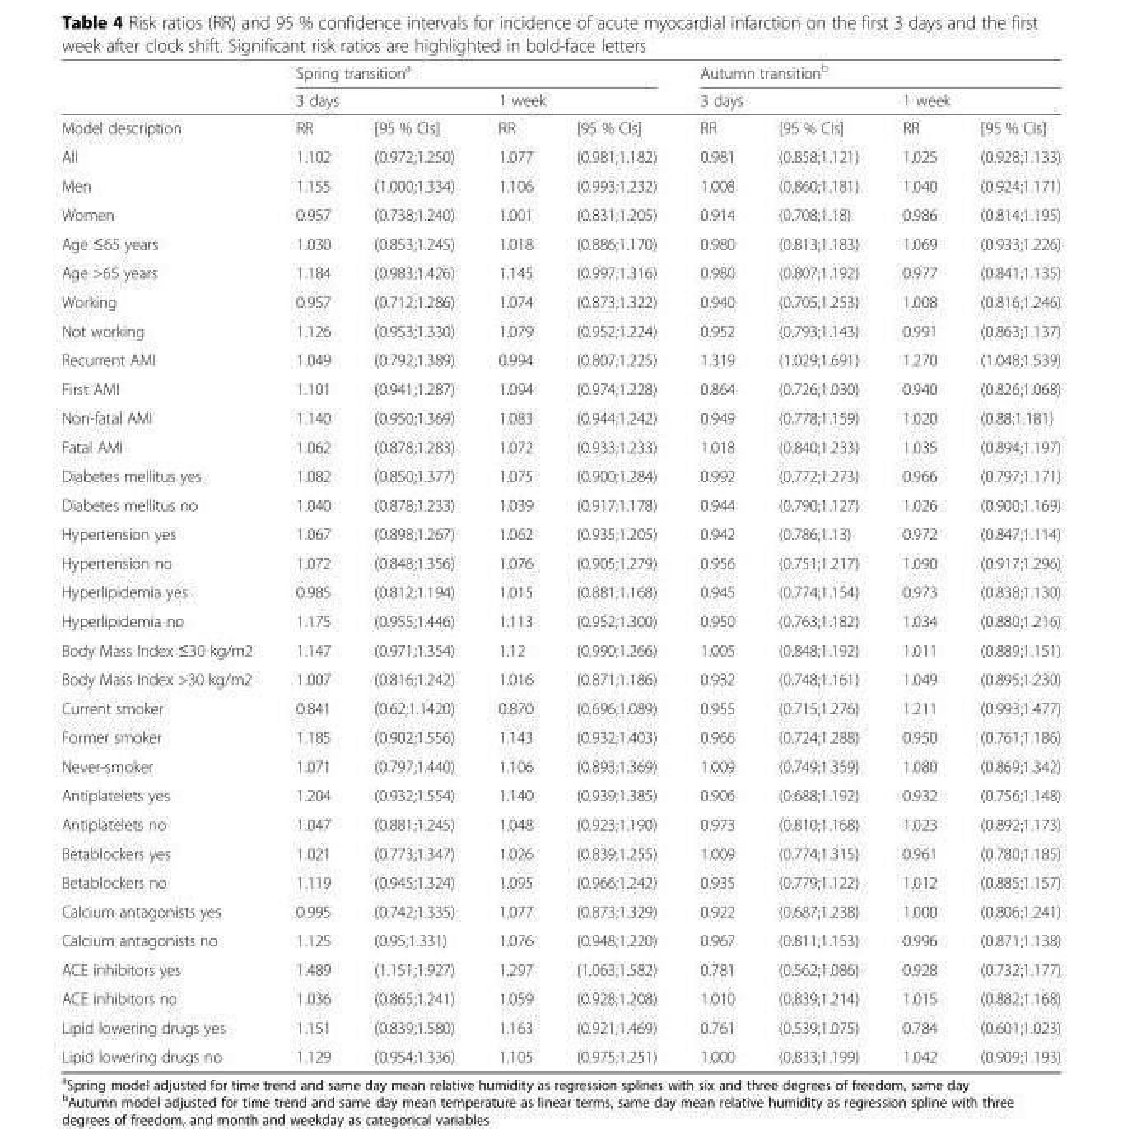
<table><thead><tr><td rowspan="3">Model description</td><td colspan="4">Spring transition<sup>a</sup></td><td colspan="4">Autumn transition<sup>b</sup></td></tr><tr><td colspan="2">3 days</td><td colspan="2">1 week</td><td colspan="2">3 days</td><td colspan="2">1 week</td></tr><tr><td>RR</td><td>[95 % CIs]</td><td>RR</td><td>[95 % CIs]</td><td>RR</td><td>[95 % CIs]</td><td>RR</td><td>[95 % CIs]</td></tr></thead><tbody><tr><td>All</td><td>1.102</td><td>(0.972;1.250)</td><td>1.077</td><td>(0.981;1.182)</td><td>0.981</td><td>(0.858;1.121)</td><td>1.025</td><td>(0.928;1.133)</td></tr><tr><td>Men</td><td>1.155</td><td>(1.000;1.334)</td><td>1.106</td><td>(0.993;1.232)</td><td>1.008</td><td>(0.860;1.181)</td><td>1.040</td><td>(0.924;1.171)</td></tr><tr><td>Women</td><td>0.957</td><td>(0.738;1.240)</td><td>1.001</td><td>(0.831;1.205)</td><td>0.914</td><td>(0.708;1.18)</td><td>0.986</td><td>(0.814;1.195)</td></tr><tr><td>Age ≤65 years</td><td>1.030</td><td>(0.853;1.245)</td><td>1.018</td><td>(0.886;1.170)</td><td>0.980</td><td>(0.813;1.183)</td><td>1.069</td><td>(0.933;1.226)</td></tr><tr><td>Age &gt;65 years</td><td>1.184</td><td>(0.983;1.426)</td><td>1.145</td><td>(0.997;1.316)</td><td>0.980</td><td>(0.807;1.192)</td><td>0.977</td><td>(0.841;1.135)</td></tr><tr><td>Working</td><td>0.957</td><td>(0.712;1.286)</td><td>1.074</td><td>(0.873;1.322)</td><td>0.940</td><td>(0.705;1.253)</td><td>1.008</td><td>(0.816;1.246)</td></tr><tr><td>Not working</td><td>1.126</td><td>(0.953;1.330)</td><td>1.079</td><td>(0.952;1.224)</td><td>0.952</td><td>(0.793;1.143)</td><td>0.991</td><td>(0.863;1.137)</td></tr><tr><td>Recurrent AMI</td><td>1.049</td><td>(0.792;1.389)</td><td>0.994</td><td>(0.807;1.225)</td><td>1.319</td><td>(1.029;1.691)</td><td>1.270</td><td>(1.048;1.539)</td></tr><tr><td>First AMI</td><td>1.101</td><td>(0.941;1.287)</td><td>1.094</td><td>(0.974;1.228)</td><td>0.864</td><td>(0.726;1.030)</td><td>0.940</td><td>(0.826;1.068)</td></tr><tr><td>Non-fatal AMI</td><td>1.140</td><td>(0.950;1.369)</td><td>1.083</td><td>(0.944;1.242)</td><td>0.949</td><td>(0.778;1.159)</td><td>1.020</td><td>(0.88;1.181)</td></tr><tr><td>Fatal AMI</td><td>1.062</td><td>(0.878;1.283)</td><td>1.072</td><td>(0.933;1.233)</td><td>1.018</td><td>(0.840;1.233)</td><td>1.035</td><td>(0.894;1.197)</td></tr><tr><td>Diabetes mellitus yes</td><td>1.082</td><td>(0.850;1.377)</td><td>1.075</td><td>(0.900;1.284)</td><td>0.992</td><td>(0.772;1.273)</td><td>0.966</td><td>(0.797;1.171)</td></tr><tr><td>Diabetes mellitus no</td><td>1.040</td><td>(0.878;1.233)</td><td>1.039</td><td>(0.917;1.178)</td><td>0.944</td><td>(0.790;1.127)</td><td>1.026</td><td>(0.900;1.169)</td></tr><tr><td>Hypertension yes</td><td>1.067</td><td>(0.898;1.267)</td><td>1.062</td><td>(0.935;1.205)</td><td>0.942</td><td>(0.786;1.13)</td><td>0.972</td><td>(0.847;1.114)</td></tr><tr><td>Hypertension no</td><td>1.072</td><td>(0.848;1.356)</td><td>1.076</td><td>(0.905;1.279)</td><td>0.956</td><td>(0.751;1.217)</td><td>1.090</td><td>(0.917;1.296)</td></tr><tr><td>Hyperlipidemia yes</td><td>0.985</td><td>(0.812;1.194)</td><td>1.015</td><td>(0.881;1.168)</td><td>0.945</td><td>(0.774;1.154)</td><td>0.973</td><td>(0.838;1.130)</td></tr><tr><td>Hyperlipidemia no</td><td>1.175</td><td>(0.955;1.446)</td><td>1.113</td><td>(0.952;1.300)</td><td>0.950</td><td>(0.763;1.182)</td><td>1.034</td><td>(0.880;1.216)</td></tr><tr><td>Body Mass Index ≤30 kg/m2</td><td>1.147</td><td>(0.971;1.354)</td><td>1.12</td><td>(0.990;1.266)</td><td>1.005</td><td>(0.848;1.192)</td><td>1.011</td><td>(0.889;1.151)</td></tr><tr><td>Body Mass Index &gt;30 kg/m2</td><td>1.007</td><td>(0.816;1.242)</td><td>1.016</td><td>(0.871;1.186)</td><td>0.932</td><td>(0.748;1.161)</td><td>1.049</td><td>(0.895;1.230)</td></tr><tr><td>Current smoker</td><td>0.841</td><td>(0.62;1.1420)</td><td>0.870</td><td>(0.696;1.089)</td><td>0.955</td><td>(0.715;1.276)</td><td>1.211</td><td>(0.993;1.477)</td></tr><tr><td>Former smoker</td><td>1.185</td><td>(0.902;1.556)</td><td>1.143</td><td>(0.932;1.403)</td><td>0.966</td><td>(0.724;1.288)</td><td>0.950</td><td>(0.761;1.186)</td></tr><tr><td>Never-smoker</td><td>1.071</td><td>(0.797;1.440)</td><td>1.106</td><td>(0.893;1.369)</td><td>1.009</td><td>(0.749;1.359)</td><td>1.080</td><td>(0.869;1.342)</td></tr><tr><td>Antiplatelets yes</td><td>1.204</td><td>(0.932;1.554)</td><td>1.140</td><td>(0.939;1.385)</td><td>0.906</td><td>(0.688;1.192)</td><td>0.932</td><td>(0.756;1.148)</td></tr><tr><td>Antiplatelets no</td><td>1.047</td><td>(0.881;1.245)</td><td>1.048</td><td>(0.923;1.190)</td><td>0.973</td><td>(0.810;1.168)</td><td>1.023</td><td>(0.892;1.173)</td></tr><tr><td>Betablockers yes</td><td>1.021</td><td>(0.773;1.347)</td><td>1.026</td><td>(0.839;1.255)</td><td>1.009</td><td>(0.774;1.315)</td><td>0.961</td><td>(0.780;1.185)</td></tr><tr><td>Betablockers no</td><td>1.119</td><td>(0.945;1.324)</td><td>1.095</td><td>(0.966;1.242)</td><td>0.935</td><td>(0.779;1.122)</td><td>1.012</td><td>(0.885;1.157)</td></tr><tr><td>Calcium antagonists yes</td><td>0.995</td><td>(0.742;1.335)</td><td>1.077</td><td>(0.873;1.329)</td><td>0.922</td><td>(0.687;1.238)</td><td>1.000</td><td>(0.806;1.241)</td></tr><tr><td>Calcium antagonists no</td><td>1.125</td><td>(0.95;1.331)</td><td>1.076</td><td>(0.948;1.220)</td><td>0.967</td><td>(0.811;1.153)</td><td>0.996</td><td>(0.871;1.138)</td></tr><tr><td>ACE inhibitors yes</td><td>1.489</td><td>(1.151;1.927)</td><td>1.297</td><td>(1.063;1.582)</td><td>0.781</td><td>(0.562;1.086)</td><td>0.928</td><td>(0.732;1.177)</td></tr><tr><td>ACE inhibitors no</td><td>1.036</td><td>(0.865;1.241)</td><td>1.059</td><td>(0.928;1.208)</td><td>1.010</td><td>(0.839;1.214)</td><td>1.015</td><td>(0.882;1.168)</td></tr><tr><td>Lipid lowering drugs yes</td><td>1.151</td><td>(0.839;1.580)</td><td>1.163</td><td>(0.921;1.469)</td><td>0.761</td><td>(0.539;1.075)</td><td>0.784</td><td>(0.601;1.023)</td></tr><tr><td>Lipid lowering drugs no</td><td>1.129</td><td>(0.954;1.336)</td><td>1.105</td><td>(0.975;1.251)</td><td>1.000</td><td>(0.833;1.199)</td><td>1.042</td><td>(0.909;1.193)</td></tr></tbody></table>